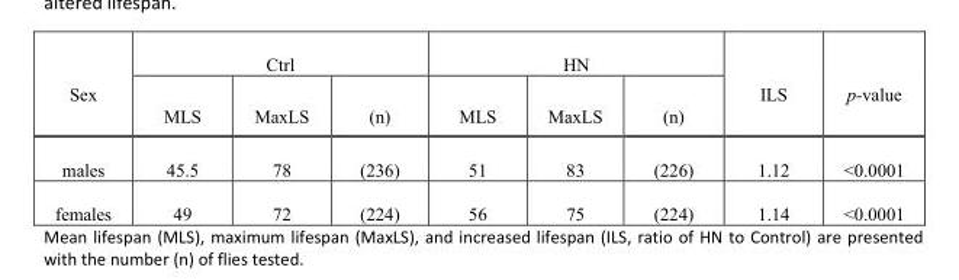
<table><thead><tr><td rowspan="2">Sex</td><td colspan="3">Ctrl</td><td colspan="3">HN</td><td rowspan="2">ILS</td><td rowspan="2">p-value</td></tr><tr><td>MLS</td><td>MaxLS</td><td>(n)</td><td>MLS</td><td>MaxLS</td><td>(n)</td></tr></thead><tbody><tr><td>males</td><td>45.5</td><td>78</td><td>(236)</td><td>51</td><td>83</td><td>(226)</td><td>1.12</td><td>&lt;0.0001</td></tr><tr><td>females</td><td>49</td><td>72</td><td>(224)</td><td>56</td><td>75</td><td>(224)</td><td>1.14</td><td>&lt;0.0001</td></tr></tbody></table>